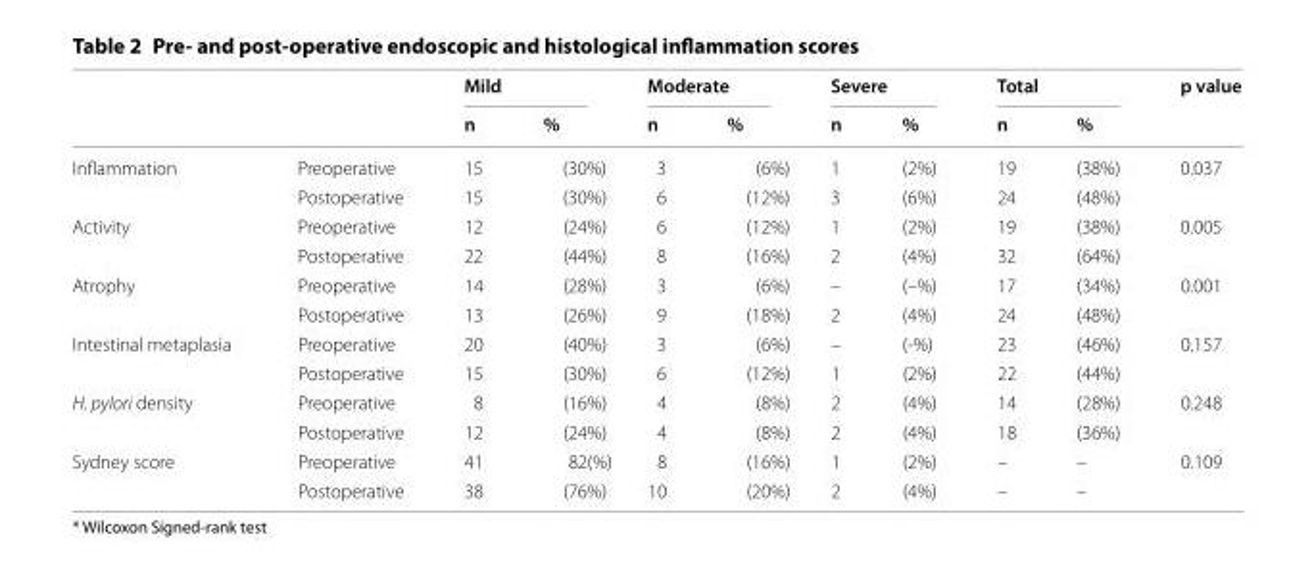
<table><thead><tr><td rowspan="2"></td><td rowspan="2"></td><td colspan="2">Mild</td><td colspan="2">Moderate</td><td colspan="2">Severe</td><td colspan="2">Total</td><td rowspan="2">p value</td></tr><tr><td>n</td><td>%</td><td>n</td><td>%</td><td>n</td><td>%</td><td>n</td><td>%</td></tr></thead><tbody><tr><td rowspan="2">Inflammation</td><td>Preoperative</td><td>15</td><td>(30%)</td><td>3</td><td>(6%)</td><td>1</td><td>(2%)</td><td>19</td><td>(38%)</td><td rowspan="2">0.037</td></tr><tr><td>Postoperative</td><td>15</td><td>(30%)</td><td>6</td><td>(12%)</td><td>3</td><td>(6%)</td><td>24</td><td>(48%)</td></tr><tr><td rowspan="2">Activity</td><td>Preoperative</td><td>12</td><td>(24%)</td><td>6</td><td>(12%)</td><td>1</td><td>(2%)</td><td>19</td><td>(38%)</td><td rowspan="2">0.005</td></tr><tr><td>Postoperative</td><td>22</td><td>(44%)</td><td>8</td><td>(16%)</td><td>2</td><td>(4%)</td><td>32</td><td>(64%)</td></tr><tr><td rowspan="2">Atrophy</td><td>Preoperative</td><td>14</td><td>(28%)</td><td>3</td><td>(6%)</td><td>–</td><td>(–%)</td><td>17</td><td>(34%)</td><td rowspan="2">0.001</td></tr><tr><td>Postoperative</td><td>13</td><td>(26%)</td><td>9</td><td>(18%)</td><td>2</td><td>(4%)</td><td>24</td><td>(48%)</td></tr><tr><td rowspan="2">Intestinal metaplasia</td><td>Preoperative</td><td>20</td><td>(40%)</td><td>3</td><td>(6%)</td><td>–</td><td>(-%)</td><td>23</td><td>(46%)</td><td rowspan="2">0.157</td></tr><tr><td>Postoperative</td><td>15</td><td>(30%)</td><td>6</td><td>(12%)</td><td>1</td><td>(2%)</td><td>22</td><td>(44%)</td></tr><tr><td rowspan="2">H. pylori density</td><td>Preoperative</td><td>8</td><td>(16%)</td><td>4</td><td>(8%)</td><td>2</td><td>(4%)</td><td>14</td><td>(28%)</td><td rowspan="2">0.248</td></tr><tr><td>Postoperative</td><td>12</td><td>(24%)</td><td>4</td><td>(8%)</td><td>2</td><td>(4%)</td><td>18</td><td>(36%)</td></tr><tr><td rowspan="2">Sydney score</td><td>Preoperative</td><td>41</td><td>82(%)</td><td>8</td><td>(16%)</td><td>1</td><td>(2%)</td><td>–</td><td>–</td><td rowspan="2">0.109</td></tr><tr><td>Postoperative</td><td>38</td><td>(76%)</td><td>10</td><td>(20%)</td><td>2</td><td>(4%)</td><td>–</td><td>–</td></tr></tbody></table>